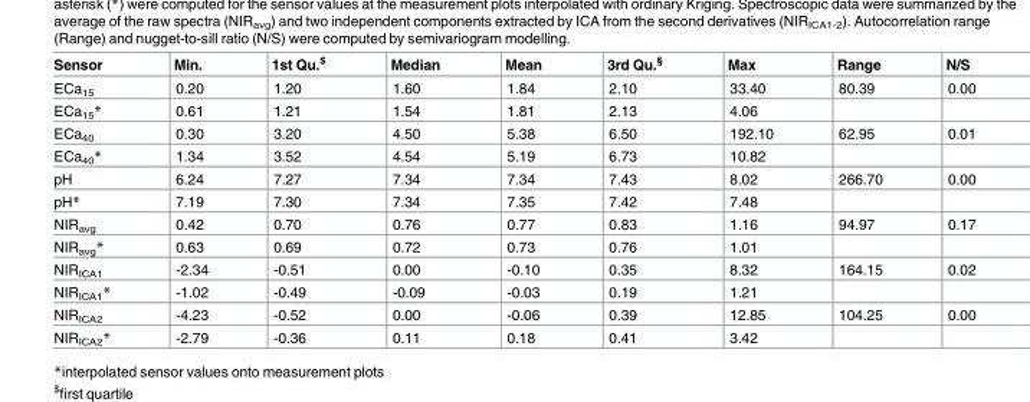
<table><thead><tr><td>Sensor</td><td>Min.</td><td>1st Qu.<sup>$</sup></td><td>Median</td><td>Mean</td><td>3rd Qu.<sup>§</sup></td><td>Max</td><td>Range</td><td>N/S</td></tr></thead><tbody><tr><td>ECa<sub>15</sub></td><td>0.20</td><td>1.20</td><td>1.60</td><td>1.84</td><td>2.10</td><td>33.40</td><td>80.39</td><td>0.00</td></tr><tr><td>ECa<sub>15</sub>*</td><td>0.61</td><td>1.21</td><td>1.54</td><td>1.81</td><td>2.13</td><td>4.06</td><td></td><td></td></tr><tr><td>ECa<sub>40</sub></td><td>0.30</td><td>3.20</td><td>4.50</td><td>5.38</td><td>6.50</td><td>192.10</td><td>62.95</td><td>0.01</td></tr><tr><td>ECa<sub>40</sub>*</td><td>1.34</td><td>3.52</td><td>4.54</td><td>5.19</td><td>6.73</td><td>10.82</td><td></td><td></td></tr><tr><td>pH</td><td>6.24</td><td>7.27</td><td>7.34</td><td>7.34</td><td>7.43</td><td>8.02</td><td>266.70</td><td>0.00</td></tr><tr><td>pH*</td><td>7.19</td><td>7.30</td><td>7.34</td><td>7.35</td><td>7.42</td><td>7.48</td><td></td><td></td></tr><tr><td>NIR<sub>avg</sub></td><td>0.42</td><td>0.70</td><td>0.76</td><td>0.77</td><td>0.83</td><td>1.16</td><td>94.97</td><td>0.17</td></tr><tr><td>NIR<sub>avg</sub>*</td><td>0.63</td><td>0.69</td><td>0.72</td><td>0.73</td><td>0.76</td><td>1.01</td><td></td><td></td></tr><tr><td>NIR<sub>ICA1</sub></td><td>-2.34</td><td>-0.51</td><td>0.00</td><td>-0.10</td><td>0.35</td><td>8.32</td><td>164.15</td><td>0.02</td></tr><tr><td>NIR<sub>ICA1</sub>*</td><td>-1.02</td><td>-0.49</td><td>-0.09</td><td>-0.03</td><td>0.19</td><td>1.21</td><td></td><td></td></tr><tr><td>NIR<sub>ICA2</sub></td><td>-4.23</td><td>-0.52</td><td>0.00</td><td>-0.06</td><td>0.39</td><td>12.85</td><td>104.25</td><td>0.00</td></tr><tr><td>NIR<sub>ICA2</sub>*</td><td>-2.79</td><td>-0.36</td><td>0.11</td><td>0.18</td><td>0.41</td><td>3.42</td><td></td><td></td></tr></tbody></table>